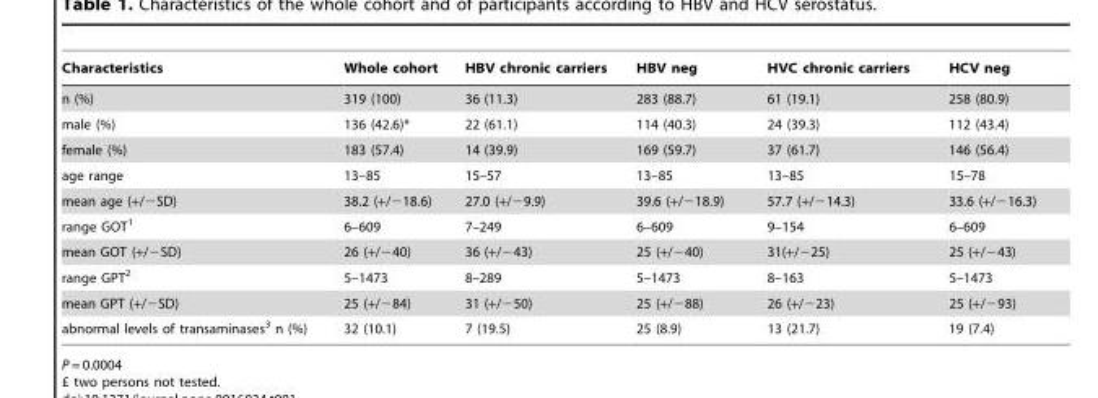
<table><thead><tr><td>Characteristics</td><td>Whole cohort</td><td>HBV chronic carriers</td><td>HBV neg</td><td>HVC chronic carriers</td><td>HCV neg</td></tr></thead><tbody><tr><td>n (%)</td><td>319 (100)</td><td>36 (11.3)</td><td>283 (88.7)</td><td>61 (19.1)</td><td>258 (80.9)</td></tr><tr><td>male (%)</td><td>136 (42.6)*</td><td>22 (61.1)</td><td>114 (40.3)</td><td>24 (39.3)</td><td>112 (43.4)</td></tr><tr><td>female (%)</td><td>183 (57.4)</td><td>14 (39.9)</td><td>169 (59.7)</td><td>37 (61.7)</td><td>146 (56.4)</td></tr><tr><td>age range</td><td>13–85</td><td>15–57</td><td>13–85</td><td>13–85</td><td>15–78</td></tr><tr><td>mean age (+/−SD)</td><td>38.2 (+/−18.6)</td><td>27.0 (+/−9.9)</td><td>39.6 (+/−18.9)</td><td>57.7 (+/−14.3)</td><td>33.6 (+/−16.3)</td></tr><tr><td>range GOT1</td><td>6–609</td><td>7–249</td><td>6–609</td><td>9–154</td><td>6–609</td></tr><tr><td>mean GOT (+/−SD)</td><td>26 (+/−40)</td><td>36 (+/−43)</td><td>25 (+/−40)</td><td>31(+/−25)</td><td>25 (+/−43)</td></tr><tr><td>range GPT2</td><td>5–1473</td><td>8–289</td><td>5–1473</td><td>8–163</td><td>5–1473</td></tr><tr><td>mean GPT (+/−SD)</td><td>25 (+/−84)</td><td>31 (+/−50)</td><td>25 (+/−88)</td><td>26 (+/−23)</td><td>25 (+/−93)</td></tr><tr><td>abnormal levels of transaminases3 n (%)</td><td>32 (10.1)</td><td>7 (19.5)</td><td>25 (8.9)</td><td>13 (21.7)</td><td>19 (7.4)</td></tr></tbody></table>